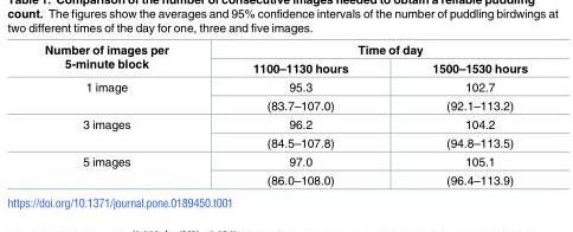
<table><thead><tr><td rowspan="2">Number of images per 5-minute block</td><td colspan="2">Time of day</td></tr><tr><td>1100–1130 hours</td><td>1500–1530 hours</td></tr></thead><tbody><tr><td rowspan="2">1 image</td><td>95.3</td><td>102.7</td></tr><tr><td>(83.7–107.0)</td><td>(92.1–113.2)</td></tr><tr><td rowspan="2">3 images</td><td>96.2</td><td>104.2</td></tr><tr><td>(84.5–107.8)</td><td>(94.8–113.5)</td></tr><tr><td rowspan="2">5 images</td><td>97.0</td><td>105.1</td></tr><tr><td>(86.0–108.0)</td><td>(96.4–113.9)</td></tr></tbody></table>